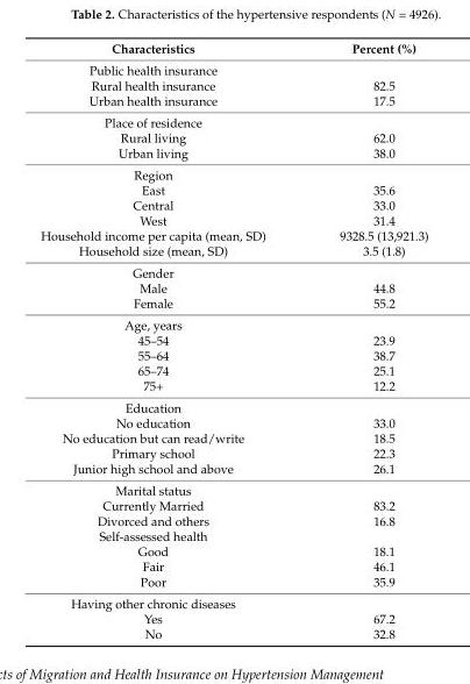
<table><thead><tr><td>Characteristics</td><td>Percent (%)</td></tr></thead><tbody><tr><td colspan="2">Public health insurance</td></tr><tr><td>Rural health insurance</td><td>82.5</td></tr><tr><td>Urban health insurance</td><td>17.5</td></tr><tr><td colspan="2">Place of residence</td></tr><tr><td>Rural living</td><td>62.0</td></tr><tr><td>Urban living</td><td>38.0</td></tr><tr><td colspan="2">Region</td></tr><tr><td>East</td><td>35.6</td></tr><tr><td>Central</td><td>33.0</td></tr><tr><td>West</td><td>31.4</td></tr><tr><td>Household income per capita (mean, SD)</td><td>9328.5 (13,921.3)</td></tr><tr><td>Household size (mean, SD)</td><td>3.5 (1.8)</td></tr><tr><td colspan="2">Gender</td></tr><tr><td>Male</td><td>44.8</td></tr><tr><td>Female</td><td>55.2</td></tr><tr><td colspan="2">Age, years</td></tr><tr><td>45–54</td><td>23.9</td></tr><tr><td>55–64</td><td>38.7</td></tr><tr><td>65–74</td><td>25.1</td></tr><tr><td>75+</td><td>12.2</td></tr><tr><td colspan="2">Education</td></tr><tr><td>No education</td><td>33.0</td></tr><tr><td>No education but can read/write</td><td>18.5</td></tr><tr><td>Primary school</td><td>22.3</td></tr><tr><td>Junior high school and above</td><td>26.1</td></tr><tr><td colspan="2">Marital status</td></tr><tr><td>Currently Married</td><td>83.2</td></tr><tr><td>Divorced and others</td><td>16.8</td></tr><tr><td colspan="2">Self-assessed health</td></tr><tr><td>Good</td><td>18.1</td></tr><tr><td>Fair</td><td>46.1</td></tr><tr><td>Poor</td><td>35.9</td></tr><tr><td colspan="2">Having other chronic diseases</td></tr><tr><td>Yes</td><td>67.2</td></tr><tr><td>No</td><td>32.8</td></tr></tbody></table>